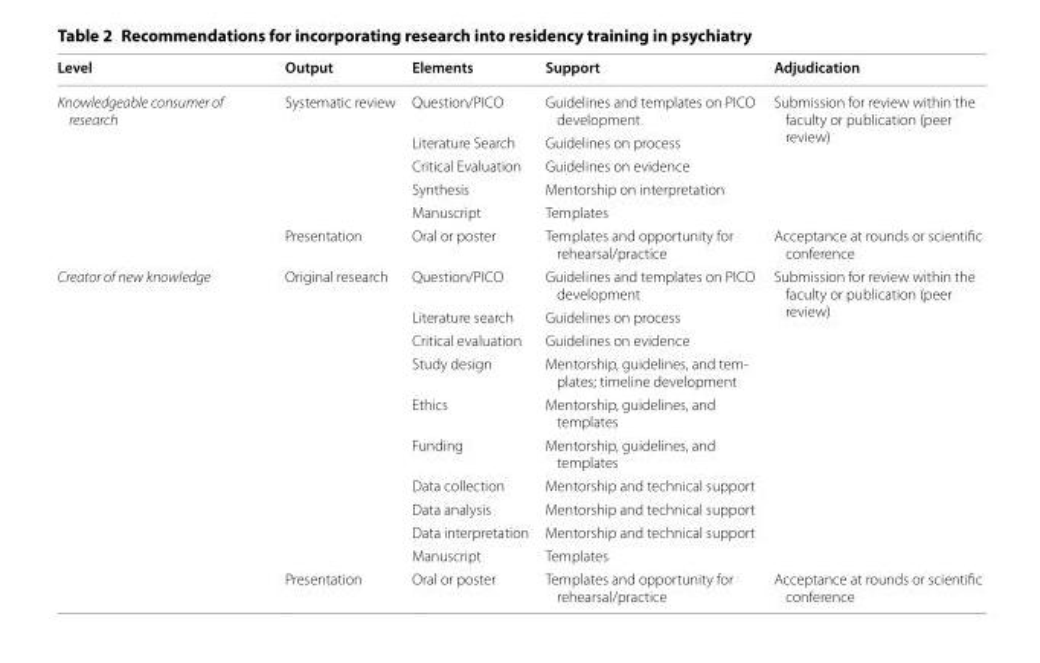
<table><thead><tr><td>Level</td><td>Output</td><td>Elements</td><td>Support</td><td>Adjudication</td></tr></thead><tbody><tr><td rowspan="6">Knowledgeable consumer of research</td><td rowspan="5">Systematic review</td><td>Question/PICO</td><td>Guidelines and templates on PICO development</td><td rowspan="5">Submission for review within the faculty or publication (peer review)</td></tr><tr><td>Literature Search</td><td>Guidelines on process</td></tr><tr><td>Critical Evaluation</td><td>Guidelines on evidence</td></tr><tr><td>Synthesis</td><td>Mentorship on interpretation</td></tr><tr><td>Manuscript</td><td>Templates</td></tr><tr><td>Presentation</td><td>Oral or poster</td><td>Templates and opportunity for rehearsal/practice</td><td>Acceptance at rounds or scientific conference</td></tr><tr><td rowspan="11">Creator of new knowledge</td><td rowspan="10">Original research</td><td>Question/PICO</td><td>Guidelines and templates on PICO development</td><td rowspan="10">Submission for review within the faculty or publication (peer review)</td></tr><tr><td>Literature search</td><td>Guidelines on process</td></tr><tr><td>Critical evaluation</td><td>Guidelines on evidence</td></tr><tr><td>Study design</td><td>Mentorship, guidelines, and tem- plates; timeline development</td></tr><tr><td>Ethics</td><td>Mentorship, guidelines, and templates</td></tr><tr><td>Funding</td><td>Mentorship, guidelines, and templates</td></tr><tr><td>Data collection</td><td>Mentorship and technical support</td></tr><tr><td>Data analysis</td><td>Mentorship and technical support</td></tr><tr><td>Data interpretation</td><td>Mentorship and technical support</td></tr><tr><td>Manuscript</td><td>Templates</td></tr><tr><td>Presentation</td><td>Oral or poster</td><td>Templates and opportunity for rehearsal/practice</td><td>Acceptance at rounds or scientific conference</td></tr></tbody></table>